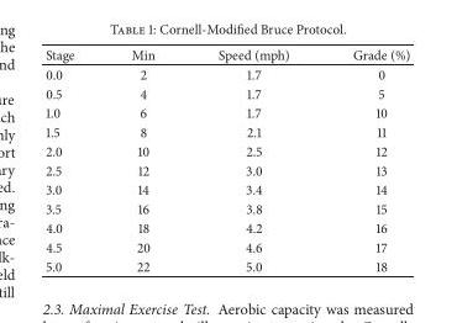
<table><thead><tr><td>Stage</td><td>Min</td><td>Speed (mph)</td><td>Grade (%)</td></tr></thead><tbody><tr><td>0.0</td><td>2</td><td>1.7</td><td>0</td></tr><tr><td>0.5</td><td>4</td><td>1.7</td><td>5</td></tr><tr><td>1.0</td><td>6</td><td>1.7</td><td>10</td></tr><tr><td>1.5</td><td>8</td><td>2.1</td><td>11</td></tr><tr><td>2.0</td><td>10</td><td>2.5</td><td>12</td></tr><tr><td>2.5</td><td>12</td><td>3.0</td><td>13</td></tr><tr><td>3.0</td><td>14</td><td>3.4</td><td>14</td></tr><tr><td>3.5</td><td>16</td><td>3.8</td><td>15</td></tr><tr><td>4.0</td><td>18</td><td>4.2</td><td>16</td></tr><tr><td>4.5</td><td>20</td><td>4.6</td><td>17</td></tr><tr><td>5.0</td><td>22</td><td>5.0</td><td>18</td></tr></tbody></table>